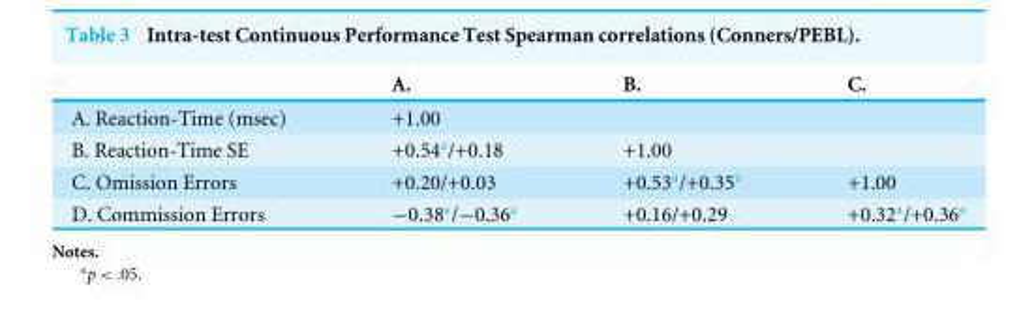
<table><thead><tr><td></td><td>A.</td><td>B.</td><td>C.</td></tr></thead><tbody><tr><td>A. Reaction-Time (msec)</td><td>+1.00</td><td></td><td></td></tr><tr><td>B. Reaction-Time SE</td><td>+0.54<sup>a</sup>/+0.18</td><td>+1.00</td><td></td></tr><tr><td>C. Omission Errors</td><td>+0.20/+0.03</td><td>+0.53<sup>a</sup>/+0.35<sup>a</sup></td><td>+1.00</td></tr><tr><td>D. Commission Errors</td><td>−0.38<sup>a</sup>/−0.36<sup>a</sup></td><td>+0.16/+0.29</td><td>+0.32<sup>a</sup>/+0.36<sup>a</sup></td></tr></tbody></table>